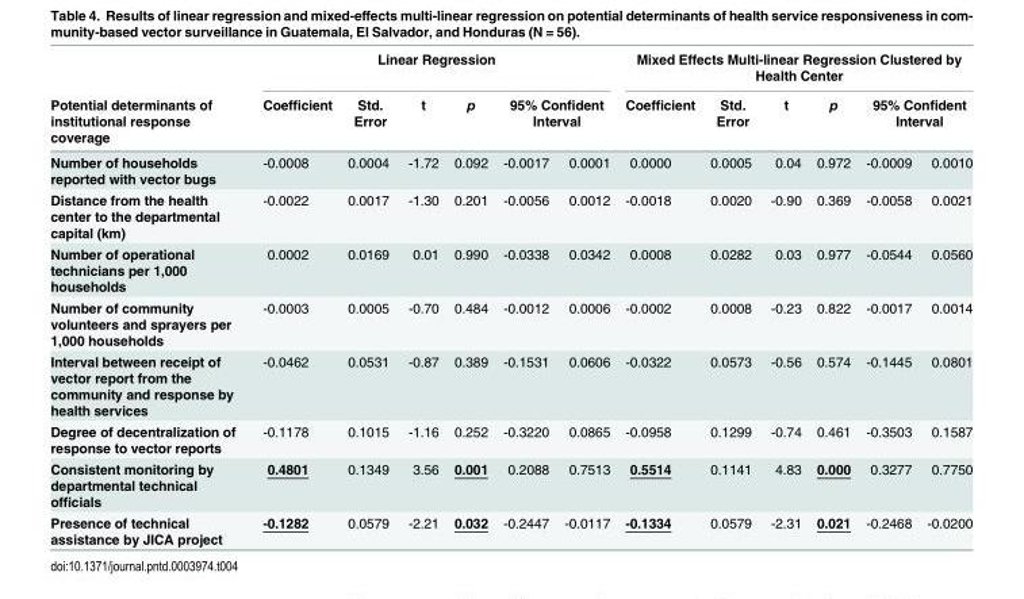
<table><thead><tr><td rowspan="3">Potential determinants of institutional response coverage Number of households reported with vector bugs</td><td colspan="6">Linear Regression</td><td colspan="6">Mixed Effects Multi-linear Regression Clustered by Health Center</td></tr><tr><td rowspan="2">Coefficient -0.0008</td><td rowspan="2">Std. Error 0.0004</td><td rowspan="2">t -1.72</td><td rowspan="2">p 0.092</td><td colspan="2">95% Confident Interval</td><td rowspan="2">Coefficient 0.0000</td><td rowspan="2">Std. Error 0.0005</td><td rowspan="2">t 0.04</td><td rowspan="2">p 0.972</td><td colspan="2">95% Confident Interval</td></tr><tr><td>-0.0017</td><td>0.0001</td><td>-0.0009</td><td>0.0010</td></tr></thead><tbody><tr><td>Distance from the health center to the departmental capital (km)</td><td>-0.0022</td><td>0.0017</td><td>-1.30</td><td>0.201</td><td>-0.0056</td><td>0.0012</td><td>-0.0018</td><td>0.0020</td><td>-0.90</td><td>0.369</td><td>-0.0058</td><td>0.0021</td></tr><tr><td>Number of operational technicians per 1,000 households</td><td>0.0002</td><td>0.0169</td><td>0.01</td><td>0.990</td><td>-0.0338</td><td>0.0342</td><td>0.0008</td><td>0.0282</td><td>0.03</td><td>0.977</td><td>-0.0544</td><td>0.0560</td></tr><tr><td>Number of community volunteers and sprayers per 1,000 households</td><td>-0.0003</td><td>0.0005</td><td>-0.70</td><td>0.484</td><td>-0.0012</td><td>0.0006</td><td>-0.0002</td><td>0.0008</td><td>-0.23</td><td>0.822</td><td>-0.0017</td><td>0.0014</td></tr><tr><td>Interval between receipt of vector report from the community and response by health services</td><td>-0.0462</td><td>0.0531</td><td>-0.87</td><td>0.389</td><td>-0.1531</td><td>0.0606</td><td>-0.0322</td><td>0.0573</td><td>-0.56</td><td>0.574</td><td>-0.1445</td><td>0.0801</td></tr><tr><td>Degree of decentralization of response to vector reports</td><td>-0.1178</td><td>0.1015</td><td>-1.16</td><td>0.252</td><td>-0.3220</td><td>0.0865</td><td>-0.0958</td><td>0.1299</td><td>-0.74</td><td>0.461</td><td>-0.3503</td><td>0.1587</td></tr><tr><td>Consistent monitoring by departmental technical officials</td><td>0.4801</td><td>0.1349</td><td>3.56</td><td>0.001</td><td>0.2088</td><td>0.7513</td><td>0.5514</td><td>0.1141</td><td>4.83</td><td>0.000</td><td>0.3277</td><td>0.7750</td></tr><tr><td>Presence of technical assistance by JICA project</td><td>-0.1282</td><td>0.0579</td><td>-2.21</td><td>0.032</td><td>-0.2447</td><td>-0.0117</td><td>-0.1334</td><td>0.0579</td><td>-2.31</td><td>0.021</td><td>-0.2468</td><td>-0.0200</td></tr></tbody></table>